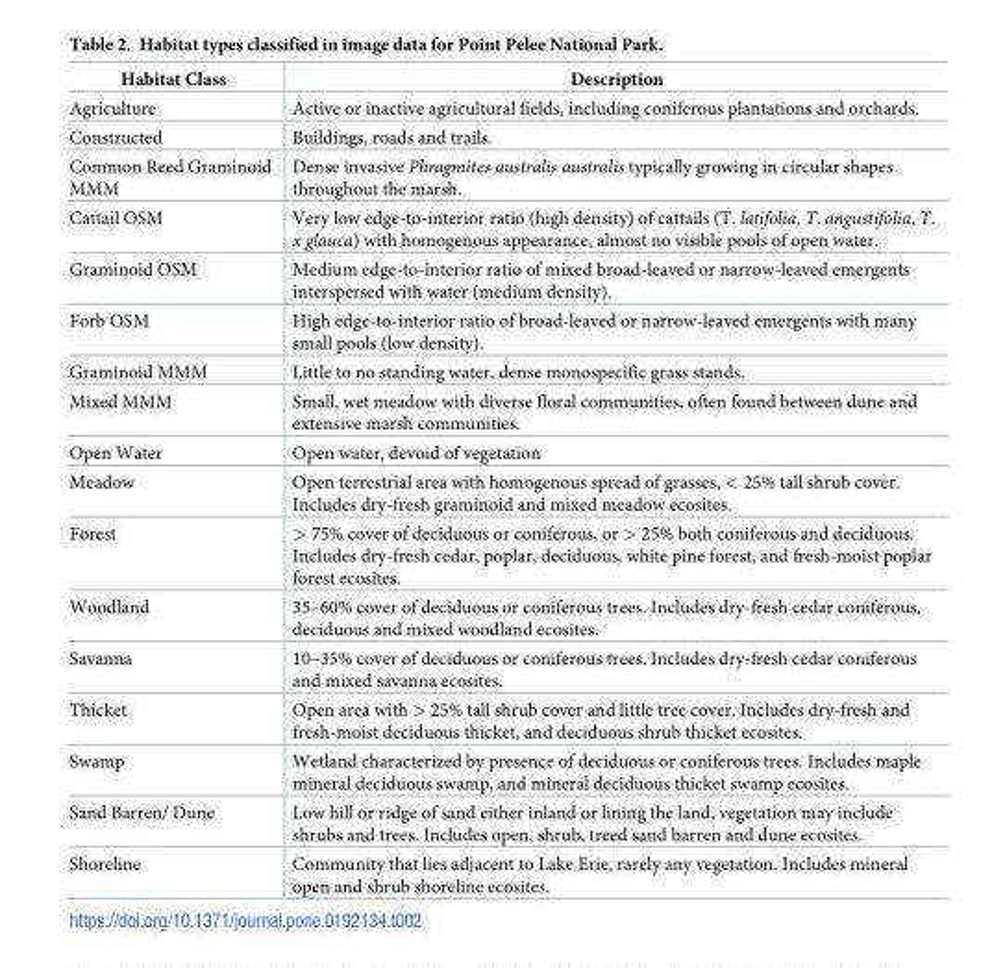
<table><thead><tr><td>Habitat Class</td><td>Description</td></tr></thead><tbody><tr><td>Agriculture</td><td>Active or inactive agricultural fields, including coniferous plantations and orchards.</td></tr><tr><td>Constructed</td><td>Buildings, roads and trails.</td></tr><tr><td>Common Reed Graminoid MMM</td><td>Dense invasive Phragmites australis australis typically growing in circular shapes throughout the marsh.</td></tr><tr><td>Cattail OSM</td><td>Very low edge-to-interior ratio (high density) of cattails (T. latifolia, T. angustifolia, T. x glauca) with homogenous appearance, almost no visible pools of open water.</td></tr><tr><td>Graminoid OSM</td><td>Medium edge-to-interior ratio of mixed broad-leaved or narrow-leaved emergents interspersed with water (medium density).</td></tr><tr><td>Forb OSM</td><td>High edge-to-interior ratio of broad-leaved or narrow-leaved emergents with many small pools (low density).</td></tr><tr><td>Graminoid MMM</td><td>Little to no standing water, dense monospecific grass stands.</td></tr><tr><td>Mixed MMM</td><td>Small, wet meadow with diverse floral communities, often found between dune and extensive marsh communities.</td></tr><tr><td>Open Water</td><td>Open water, devoid of vegetation</td></tr><tr><td>Meadow</td><td>Open terrestrial area with homogenous spread of grasses, &lt; 25% tall shrub cover. Includes dry-fresh graminoid and mixed meadow ecosites.</td></tr><tr><td>Forest</td><td>&gt; 75% cover of deciduous or coniferous, or &gt; 25% both coniferous and deciduous. Includes dry-fresh cedar, poplar, deciduous, white pine forest, and fresh-moist poplar forest ecosites.</td></tr><tr><td>Woodland</td><td>35–60% cover of deciduous or coniferous trees. Includes dry-fresh cedar coniferous, deciduous and mixed woodland ecosites.</td></tr><tr><td>Savanna</td><td>10–35% cover of deciduous or coniferous trees. Includes dry-fresh cedar coniferous and mixed savanna ecosites.</td></tr><tr><td>Thicket</td><td>Open area with &gt; 25% tall shrub cover and little tree cover. Includes dry-fresh and fresh-moist deciduous thicket, and deciduous shrub thicket ecosites.</td></tr><tr><td>Swamp</td><td>Wetland characterized by presence of deciduous or coniferous trees. Includes maple mineral deciduous swamp, and mineral deciduous thicket swamp ecosites.</td></tr><tr><td>Sand Barren/ Dune</td><td>Low hill or ridge of sand either inland or lining the land, vegetation may include shrubs and trees. Includes open, shrub, treed sand barren and dune ecosites.</td></tr><tr><td>Shoreline</td><td>Community that lies adjacent to Lake Erie, rarely any vegetation. Includes mineral open and shrub shoreline ecosites.</td></tr></tbody></table>